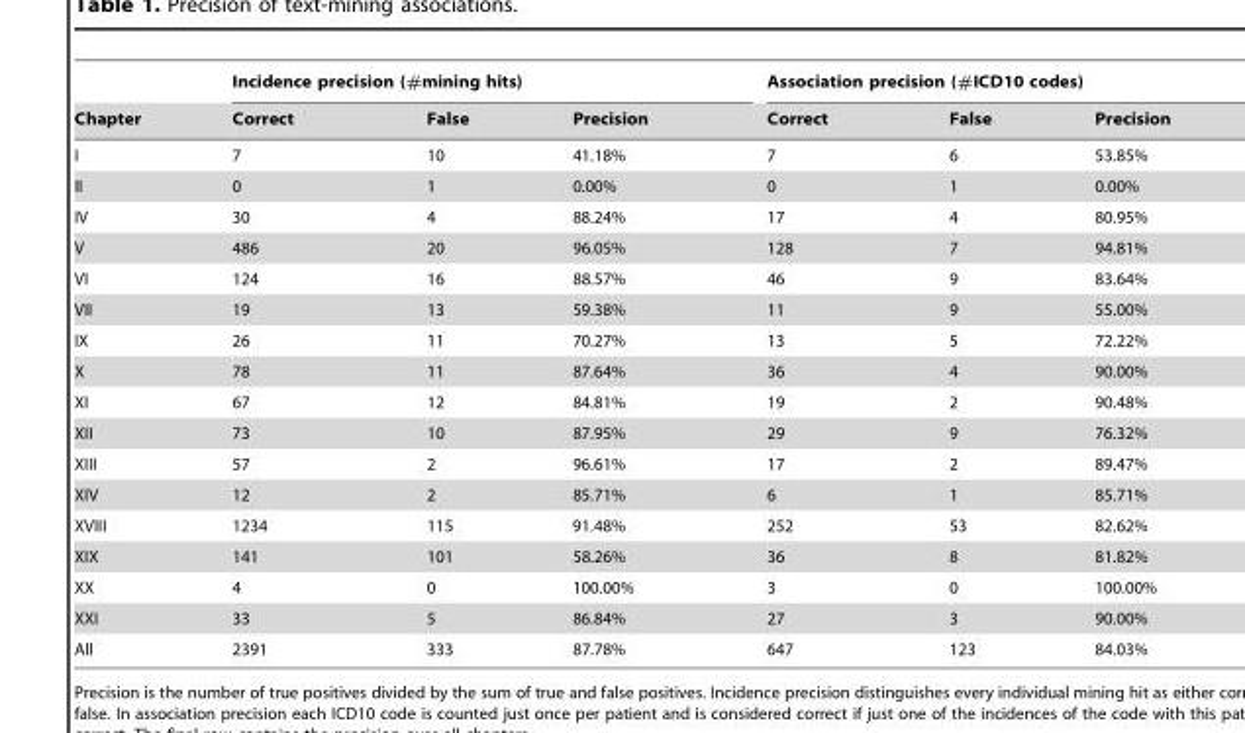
<table><thead><tr><td rowspan="2">Chapter</td><td colspan="3">Incidence precision (#mining hits)</td><td colspan="3">Association precision (#ICD10 codes)</td></tr><tr><td>Correct</td><td>False</td><td>Precision</td><td>Correct</td><td>False</td><td>Precision</td></tr></thead><tbody><tr><td>I</td><td>7</td><td>10</td><td>41.18%</td><td>7</td><td>6</td><td>53.85%</td></tr><tr><td>II</td><td>0</td><td>1</td><td>0.00%</td><td>0</td><td>1</td><td>0.00%</td></tr><tr><td>IV</td><td>30</td><td>4</td><td>88.24%</td><td>17</td><td>4</td><td>80.95%</td></tr><tr><td>V</td><td>486</td><td>20</td><td>96.05%</td><td>128</td><td>7</td><td>94.81%</td></tr><tr><td>VI</td><td>124</td><td>16</td><td>88.57%</td><td>46</td><td>9</td><td>83.64%</td></tr><tr><td>VII</td><td>19</td><td>13</td><td>59.38%</td><td>11</td><td>9</td><td>55.00%</td></tr><tr><td>IX</td><td>26</td><td>11</td><td>70.27%</td><td>13</td><td>5</td><td>72.22%</td></tr><tr><td>X</td><td>78</td><td>11</td><td>87.64%</td><td>36</td><td>4</td><td>90.00%</td></tr><tr><td>XI</td><td>67</td><td>12</td><td>84.81%</td><td>19</td><td>2</td><td>90.48%</td></tr><tr><td>XII</td><td>73</td><td>10</td><td>87.95%</td><td>29</td><td>9</td><td>76.32%</td></tr><tr><td>XIII</td><td>57</td><td>2</td><td>96.61%</td><td>17</td><td>2</td><td>89.47%</td></tr><tr><td>XIV</td><td>12</td><td>2</td><td>85.71%</td><td>6</td><td>1</td><td>85.71%</td></tr><tr><td>XVIII</td><td>1234</td><td>115</td><td>91.48%</td><td>252</td><td>53</td><td>82.62%</td></tr><tr><td>XIX</td><td>141</td><td>101</td><td>58.26%</td><td>36</td><td>8</td><td>81.82%</td></tr><tr><td>XX</td><td>4</td><td>0</td><td>100.00%</td><td>3</td><td>0</td><td>100.00%</td></tr><tr><td>XXI</td><td>33</td><td>5</td><td>86.84%</td><td>27</td><td>3</td><td>90.00%</td></tr><tr><td>All</td><td>2391</td><td>333</td><td>87.78%</td><td>647</td><td>123</td><td>84.03%</td></tr></tbody></table>